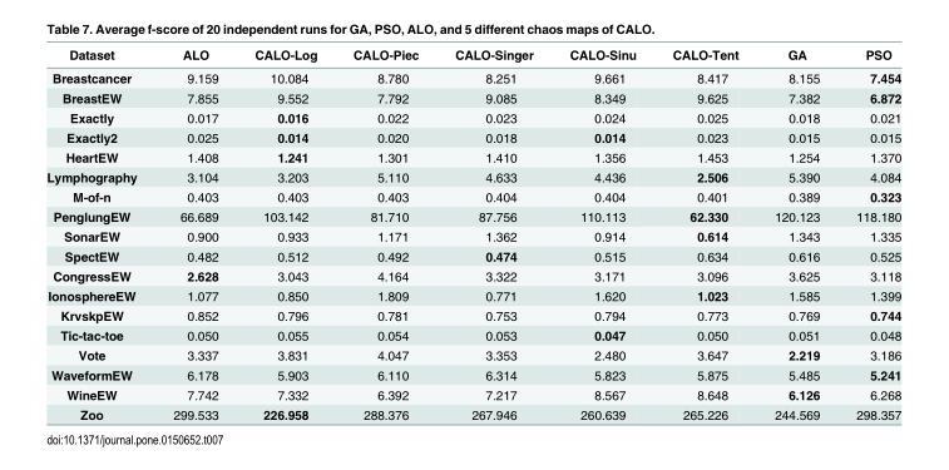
<table><thead><tr><td>Dataset</td><td>ALO</td><td>CALO-Log</td><td>CALO-Piec</td><td>CALO-Singer</td><td>CALO-Sinu</td><td>CALO-Tent</td><td>GA</td><td>PSO</td></tr></thead><tbody><tr><td>Breastcancer</td><td>9.159</td><td>10.084</td><td>8.780</td><td>8.251</td><td>9.661</td><td>8.417</td><td>8.155</td><td>7.454</td></tr><tr><td>BreastEW</td><td>7.855</td><td>9.552</td><td>7.792</td><td>9.085</td><td>8.349</td><td>9.625</td><td>7.382</td><td>6.872</td></tr><tr><td>Exactly</td><td>0.017</td><td>0.016</td><td>0.022</td><td>0.023</td><td>0.024</td><td>0.025</td><td>0.018</td><td>0.021</td></tr><tr><td>Exactly2</td><td>0.025</td><td>0.014</td><td>0.020</td><td>0.018</td><td>0.014</td><td>0.023</td><td>0.015</td><td>0.015</td></tr><tr><td>HeartEW</td><td>1.408</td><td>1.241</td><td>1.301</td><td>1.410</td><td>1.356</td><td>1.453</td><td>1.254</td><td>1.370</td></tr><tr><td>Lymphography</td><td>3.104</td><td>3.203</td><td>5.110</td><td>4.633</td><td>4.436</td><td>2.506</td><td>5.390</td><td>4.084</td></tr><tr><td>M-of-n</td><td>0.403</td><td>0.403</td><td>0.403</td><td>0.404</td><td>0.404</td><td>0.401</td><td>0.389</td><td>0.323</td></tr><tr><td>PenglungEW</td><td>66.689</td><td>103.142</td><td>81.710</td><td>87.756</td><td>110.113</td><td>62.330</td><td>120.123</td><td>118.180</td></tr><tr><td>SonarEW</td><td>0.900</td><td>0.933</td><td>1.171</td><td>1.362</td><td>0.914</td><td>0.614</td><td>1.343</td><td>1.335</td></tr><tr><td>SpectEW</td><td>0.482</td><td>0.512</td><td>0.492</td><td>0.474</td><td>0.515</td><td>0.634</td><td>0.616</td><td>0.525</td></tr><tr><td>CongressEW</td><td>2.628</td><td>3.043</td><td>4.164</td><td>3.322</td><td>3.171</td><td>3.096</td><td>3.625</td><td>3.118</td></tr><tr><td>IonosphereEW</td><td>1.077</td><td>0.850</td><td>1.809</td><td>0.771</td><td>1.620</td><td>1.023</td><td>1.585</td><td>1.399</td></tr><tr><td>KrvskpEW</td><td>0.852</td><td>0.796</td><td>0.781</td><td>0.753</td><td>0.794</td><td>0.773</td><td>0.769</td><td>0.744</td></tr><tr><td>Tic-tac-toe</td><td>0.050</td><td>0.055</td><td>0.054</td><td>0.053</td><td>0.047</td><td>0.050</td><td>0.051</td><td>0.048</td></tr><tr><td>Vote</td><td>3.337</td><td>3.831</td><td>4.047</td><td>3.353</td><td>2.480</td><td>3.647</td><td>2.219</td><td>3.186</td></tr><tr><td>WaveformEW</td><td>6.178</td><td>5.903</td><td>6.110</td><td>6.314</td><td>5.823</td><td>5.875</td><td>5.485</td><td>5.241</td></tr><tr><td>WineEW</td><td>7.742</td><td>7.332</td><td>6.392</td><td>7.217</td><td>8.567</td><td>8.648</td><td>6.126</td><td>6.268</td></tr><tr><td>Zoo</td><td>299.533</td><td>226.958</td><td>288.376</td><td>267.946</td><td>260.639</td><td>265.226</td><td>244.569</td><td>298.357</td></tr></tbody></table>